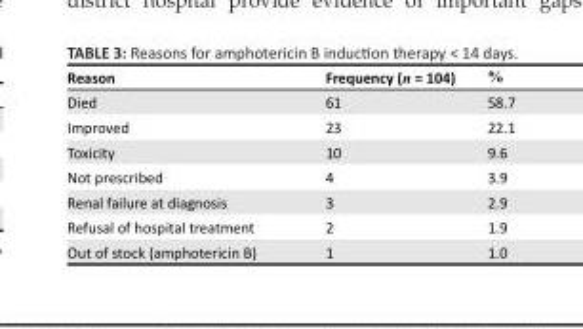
<table><thead><tr><td>Reason</td><td>Frequency (n = 104)</td><td>%</td></tr></thead><tbody><tr><td>Died</td><td>61</td><td>58.7</td></tr><tr><td>Improved</td><td>23</td><td>22.1</td></tr><tr><td>Toxicity</td><td>10</td><td>9.6</td></tr><tr><td>Not prescribed</td><td>4</td><td>3.9</td></tr><tr><td>Renal failure at diagnosis</td><td>3</td><td>2.9</td></tr><tr><td>Refusal of hospital treatment</td><td>2</td><td>1.9</td></tr><tr><td>Out of stock (amphotericin B)</td><td>1</td><td>1.0</td></tr></tbody></table>